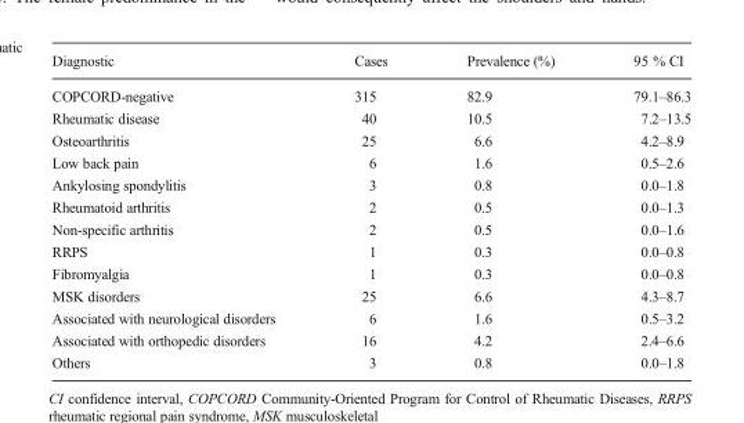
<table><thead><tr><td>Diagnostic</td><td>Cases</td><td>Prevalence (%)</td><td>95 % CI</td></tr></thead><tbody><tr><td>COPCORD-negative</td><td>315</td><td>82.9</td><td>79.1–86.3</td></tr><tr><td>Rheumatic disease</td><td>40</td><td>10.5</td><td>7.2–13.5</td></tr><tr><td>Osteoarthritis</td><td>25</td><td>6.6</td><td>4.2–8.9</td></tr><tr><td>Low back pain</td><td>6</td><td>1.6</td><td>0.5–2.6</td></tr><tr><td>Ankylosing spondylitis</td><td>3</td><td>0.8</td><td>0.0–1.8</td></tr><tr><td>Rheumatoid arthritis</td><td>2</td><td>0.5</td><td>0.0–1.3</td></tr><tr><td>Non-specific arthritis</td><td>2</td><td>0.5</td><td>0.0–1.6</td></tr><tr><td>RRPS</td><td>1</td><td>0.3</td><td>0.0–0.8</td></tr><tr><td>Fibromyalgia</td><td>1</td><td>0.3</td><td>0.0–0.8</td></tr><tr><td>MSK disorders</td><td>25</td><td>6.6</td><td>4.3–8.7</td></tr><tr><td>Associated with neurological disorders</td><td>6</td><td>1.6</td><td>0.5–3.2</td></tr><tr><td>Associated with orthopedic disorders</td><td>16</td><td>4.2</td><td>2.4–6.6</td></tr><tr><td>Others</td><td>3</td><td>0.8</td><td>0.0–1.8</td></tr></tbody></table>